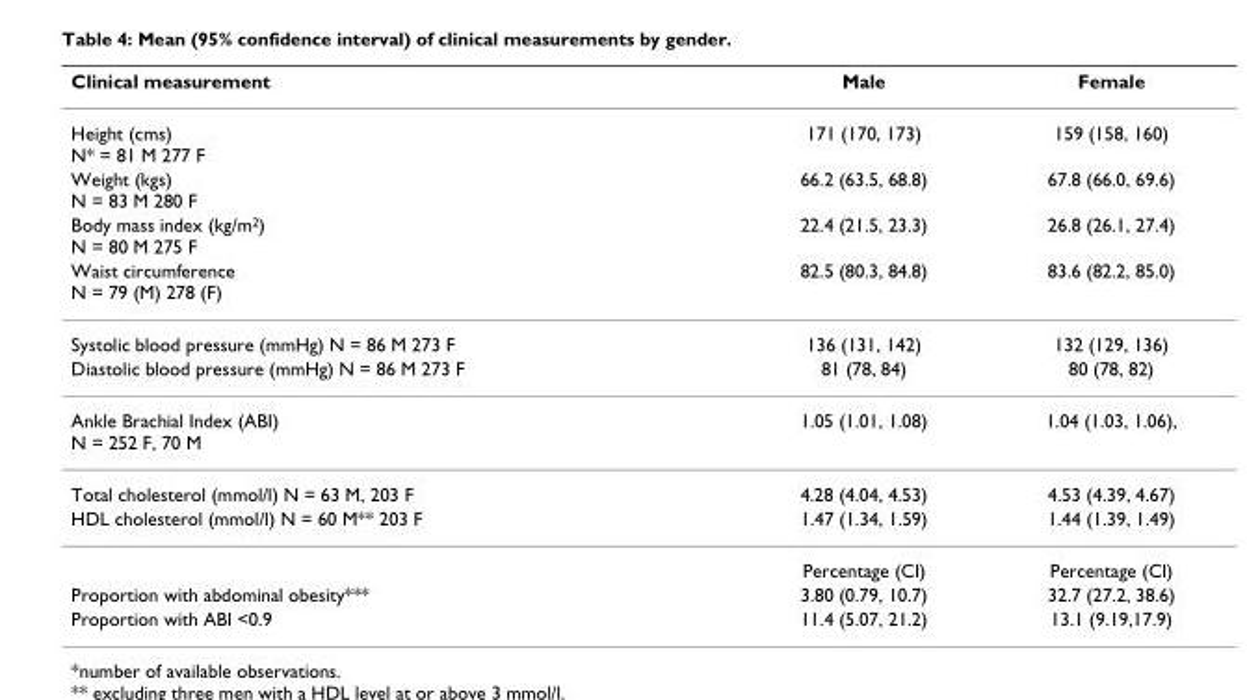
<table><thead><tr><td>Clinical measurement</td><td>Male</td><td>Female</td></tr></thead><tbody><tr><td>Height (cms) N* = 81 M 277 F</td><td>171 (170, 173)</td><td>159 (158, 160)</td></tr><tr><td>Weight (kgs) N = 83 M 280 F</td><td>66.2 (63.5, 68.8)</td><td>67.8 (66.0, 69.6)</td></tr><tr><td>Body mass index (kg/m<sup>2</sup>) N = 80 M 275 F</td><td>22.4 (21.5, 23.3)</td><td>26.8 (26.1, 27.4)</td></tr><tr><td>Waist circumference N = 79 (M) 278 (F)</td><td>82.5 (80.3, 84.8)</td><td>83.6 (82.2, 85.0)</td></tr><tr><td>Systolic blood pressure (mmHg) N = 86 M 273 F</td><td>136 (131, 142)</td><td>132 (129, 136)</td></tr><tr><td>Diastolic blood pressure (mmHg) N = 86 M 273 F</td><td>81 (78, 84)</td><td>80 (78, 82)</td></tr><tr><td>Ankle Brachial Index (ABI) N = 252 F, 70 M</td><td>1.05 (1.01, 1.08)</td><td>1.04 (1.03, 1.06),</td></tr><tr><td>Total cholesterol (mmol/l) N = 63 M, 203 F</td><td>4.28 (4.04, 4.53)</td><td>4.53 (4.39, 4.67)</td></tr><tr><td rowspan="2">HDL cholesterol (mmol/l) N = 60 M** 203 F</td><td>1.47 (1.34, 1.59)</td><td>1.44 (1.39, 1.49)</td></tr><tr><td>Percentage (CI)</td><td>Percentage (CI)</td></tr><tr><td>Proportion with abdominal obesity***</td><td>3.80 (0.79, 10.7)</td><td>32.7 (27.2, 38.6)</td></tr><tr><td>Proportion with ABI &lt;0.9</td><td>11.4 (5.07, 21.2)</td><td>13.1 (9.19,17.9)</td></tr></tbody></table>